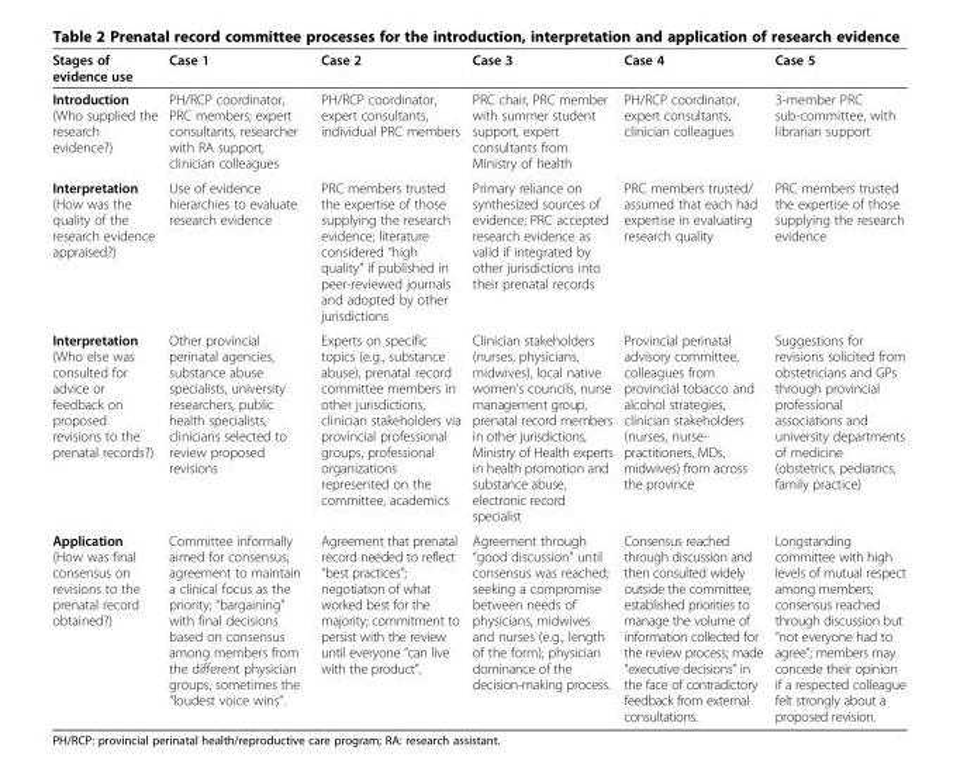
<table><thead><tr><td>Stages of evidence use</td><td>Case 1</td><td>Case 2</td><td>Case 3</td><td>Case 4</td><td>Case 5</td></tr></thead><tbody><tr><td>Introduction (Who supplied the research evidence?)</td><td>PH/RCP coordinator, PRC members; expert consultants, researcher with RA support, clinician colleagues</td><td>PH/RCP coordinator, expert consultants, individual PRC members</td><td>PRC chair, PRC member with summer student support, expert consultants from Ministry of health</td><td>PH/RCP coordinator, expert consultants, clinician colleagues</td><td>3-member PRC sub-committee, with librarian support</td></tr><tr><td>Interpretation (How was the quality of the research evidence appraised?)</td><td>Use of evidence hierarchies to evaluate research evidence</td><td>PRC members trusted the expertise of those supplying the research evidence; literature considered “high quality” if published in peer-reviewed journals and adopted by other jurisdictions</td><td>Primary reliance on synthesized sources of evidence; PRC accepted research evidence as valid if integrated by other jurisdictions into their prenatal records</td><td>PRC members trusted/ assumed that each had expertise in evaluating research quality</td><td>PRC members trusted the expertise of those supplying the research evidence</td></tr><tr><td>Interpretation (Who else was consulted for advice or feedback on proposed revisions to the prenatal records?)</td><td>Other provincial perinatal agencies, substance abuse specialists, university researchers, public health specialists, clinicians selected to review proposed revisions</td><td>Experts on specific topics (e.g., substance abuse), prenatal record committee members in other jurisdictions, clinician stakeholders via provincial professional groups, professional organizations represented on the committee, academics</td><td>Clinician stakeholders (nurses, physicians, midwives), local native women’s councils, nurse management group, prenatal record members in other jurisdictions, Ministry of Health experts in health promotion and substance abuse, electronic record specialist</td><td>Provincial perinatal advisory committee, colleagues from provincial tobacco and alcohol strategies, clinician stakeholders (nurses, nurse- practitioners, MDs, midwives) from across the province</td><td>Suggestions for revisions solicited from obstetricians and GPs through provincial professional associations and university departments of medicine (obstetrics, pediatrics, family practice)</td></tr><tr><td>Application (How was final consensus on revisions to the prenatal record obtained?)</td><td>Committee informally aimed for consensus; agreement to maintain a clinical focus as the priority; “bargaining” with final decisions based on consensus among members from the different physician groups, sometimes the “loudest voice wins”.</td><td>Agreement that prenatal record needed to reflect “best practices”; negotiation of what worked best for the majority; commitment to persist with the review until everyone “can live with the product”.</td><td>Agreement through “good discussion” until consensus was reached; seeking a compromise between needs of physicians, midwives and nurses (e.g., length of the form); physician dominance of the decision-making process.</td><td>Consensus reached through discussion and then consulted widely outside the committee; established priorities to manage the volume of information collected for the review process; made “executive decisions” in the face of contradictory feedback from external consultations.</td><td>Longstanding committee with high levels of mutual respect among members; consensus reached through discussion but “not everyone had to agree”; members may concede their opinion if a respected colleague felt strongly about a proposed revision.</td></tr></tbody></table>